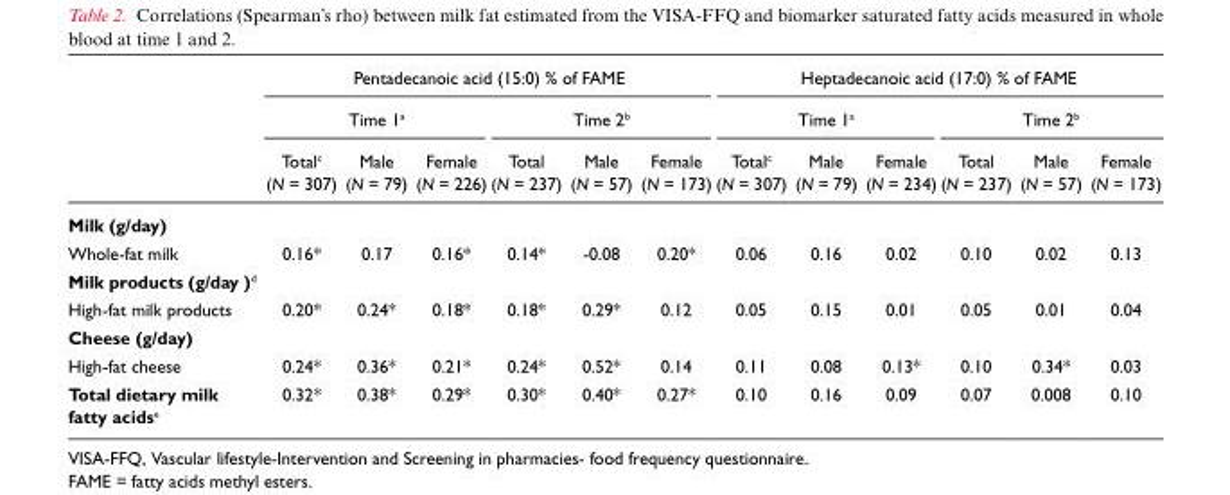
<table><thead><tr><td rowspan="3"></td><td colspan="6">Pentadecanoic acid (15:0) % of FAME</td><td colspan="6">Heptadecanoic acid (17:0) % of FAME</td></tr><tr><td colspan="3">Time 1<sup>a</sup></td><td colspan="3">Time 2<sup>b</sup></td><td colspan="3">Time 1<sup>a</sup></td><td colspan="3">Time 2<sup>b</sup></td></tr><tr><td>Total<sup>c</sup> (N = 307)</td><td>Male (N = 79)</td><td>Female (N = 226)</td><td>Total (N = 237)</td><td>Male (N = 57)</td><td>Female (N = 173)</td><td>Total<sup>c</sup> (N = 307)</td><td>Male (N = 79)</td><td>Female (N = 234)</td><td>Total (N = 237)</td><td>Male (N = 57)</td><td>Female (N = 173)</td></tr></thead><tbody><tr><td colspan="13">Milk (g/day)</td></tr><tr><td>Whole-fat milk</td><td>0.16*</td><td>0.17</td><td>0.16*</td><td>0.14*</td><td>-0.08</td><td>0.20*</td><td>0.06</td><td>0.16</td><td>0.02</td><td>0.10</td><td>0.02</td><td>0.13</td></tr><tr><td colspan="13">Milk products (g/day )<sup>d</sup></td></tr><tr><td>High-fat milk products</td><td>0.20*</td><td>0.24*</td><td>0.18*</td><td>0.18*</td><td>0.29*</td><td>0.12</td><td>0.05</td><td>0.15</td><td>0.01</td><td>0.05</td><td>0.01</td><td>0.04</td></tr><tr><td colspan="13">Cheese (g/day)</td></tr><tr><td>High-fat cheese</td><td>0.24*</td><td>0.36*</td><td>0.21*</td><td>0.24*</td><td>0.52*</td><td>0.14</td><td>0.11</td><td>0.08</td><td>0.13*</td><td>0.10</td><td>0.34*</td><td>0.03</td></tr><tr><td>Total dietary milk fatty acids<sup>e</sup></td><td>0.32*</td><td>0.38*</td><td>0.29*</td><td>0.30*</td><td>0.40*</td><td>0.27*</td><td>0.10</td><td>0.16</td><td>0.09</td><td>0.07</td><td>0.008</td><td>0.10</td></tr></tbody></table>